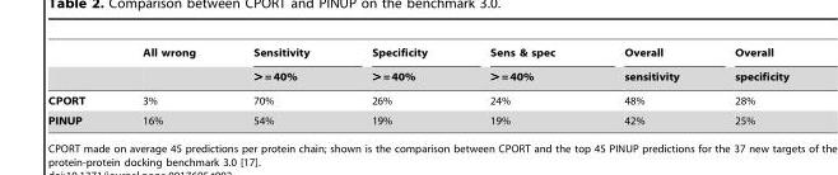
<table><thead><tr><td rowspan="2"></td><td rowspan="2">All wrong</td><td rowspan="2">Sensitivity &gt; = 40%</td><td rowspan="2">Specificity &gt; = 40%</td><td rowspan="2">Sens &amp; spec &gt; = 40%</td><td rowspan="2">Overall sensitivity</td><td rowspan="2">Overall specificity</td></tr><tr></tr></thead><tbody><tr><td>CPORT</td><td>3%</td><td>70%</td><td>26%</td><td>24%</td><td>48%</td><td>28%</td></tr><tr><td>PINUP</td><td>16%</td><td>54%</td><td>19%</td><td>19%</td><td>42%</td><td>25%</td></tr></tbody></table>